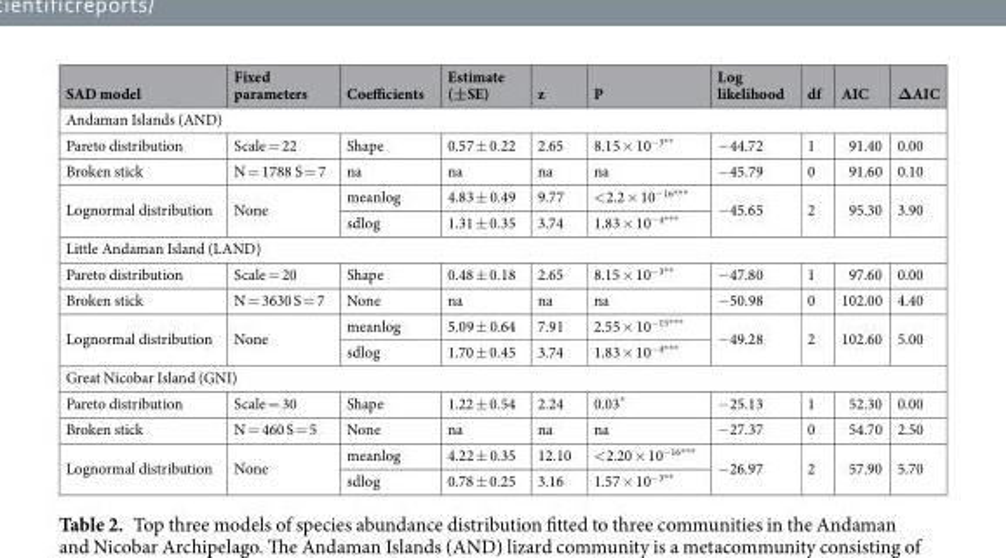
<table><thead><tr><td>SAD model</td><td>Fixed parameters</td><td>Coefficients</td><td>Estimate (±SE)</td><td>z</td><td>P</td><td>Log likelihood</td><td>df</td><td>AIC</td><td>ΔAIC</td></tr></thead><tbody><tr><td colspan="10">Andaman Islands (AND)</td></tr><tr><td>Pareto distribution</td><td>Scale = 22</td><td>Shape</td><td>0.57 ± 0.22</td><td>2.65</td><td>8.15 × 10<sup>−3**</sup></td><td>−44.72</td><td>1</td><td>91.40</td><td>0.00</td></tr><tr><td>Broken stick</td><td>N = 1788 S = 7</td><td>na</td><td>na</td><td>na</td><td>na</td><td>−45.79</td><td>0</td><td>91.60</td><td>0.10</td></tr><tr><td rowspan="2">Lognormal distribution</td><td rowspan="2">None</td><td>meanlog</td><td>4.83 ± 0.49</td><td>9.77</td><td>&lt;2.2 × 10<sup>−16***</sup></td><td rowspan="2">−45.65</td><td rowspan="2">2</td><td rowspan="2">95.30</td><td rowspan="2">3.90</td></tr><tr><td>sdlog</td><td>1.31 ± 0.35</td><td>3.74</td><td>1.83 × 10<sup>−4***</sup></td></tr><tr><td colspan="10">Little Andaman Island (LAND)</td></tr><tr><td>Pareto distribution</td><td>Scale = 20</td><td>Shape</td><td>0.48 ± 0.18</td><td>2.65</td><td>8.15 × 10<sup>−3**</sup></td><td>−47.80</td><td>1</td><td>97.60</td><td>0.00</td></tr><tr><td>Broken stick</td><td>N = 3630 S = 7</td><td>None</td><td>na</td><td>na</td><td>na</td><td>−50.98</td><td>0</td><td>102.00</td><td>4.40</td></tr><tr><td rowspan="2">Lognormal distribution</td><td rowspan="2">None</td><td>meanlog</td><td>5.09 ± 0.64</td><td>7.91</td><td>2.55 × 10<sup>−15***</sup></td><td rowspan="2">−49.28</td><td rowspan="2">2</td><td rowspan="2">102.60</td><td rowspan="2">5.00</td></tr><tr><td>sdlog</td><td>1.70 ± 0.45</td><td>3.74</td><td>1.83 × 10<sup>−4***</sup></td></tr><tr><td colspan="10">Great Nicobar Island (GNI)</td></tr><tr><td>Pareto distribution</td><td>Scale = 30</td><td>Shape</td><td>1.22 ± 0.54</td><td>2.24</td><td>0.03*</td><td>−25.13</td><td>1</td><td>52.30</td><td>0.00</td></tr><tr><td>Broken stick</td><td>N = 460 S = 5</td><td>None</td><td>na</td><td>na</td><td>na</td><td>−27.37</td><td>0</td><td>54.70</td><td>2.50</td></tr><tr><td rowspan="2">Lognormal distribution</td><td rowspan="2">None</td><td>meanlog</td><td>4.22 ± 0.35</td><td>12.10</td><td>&lt;2.20 × 10<sup>−16***</sup></td><td rowspan="2">−26.97</td><td rowspan="2">2</td><td rowspan="2">57.90</td><td rowspan="2">5.70</td></tr><tr><td>sdlog</td><td>0.78 ± 0.25</td><td>3.16</td><td>1.57 × 10<sup>−3**</sup></td></tr></tbody></table>